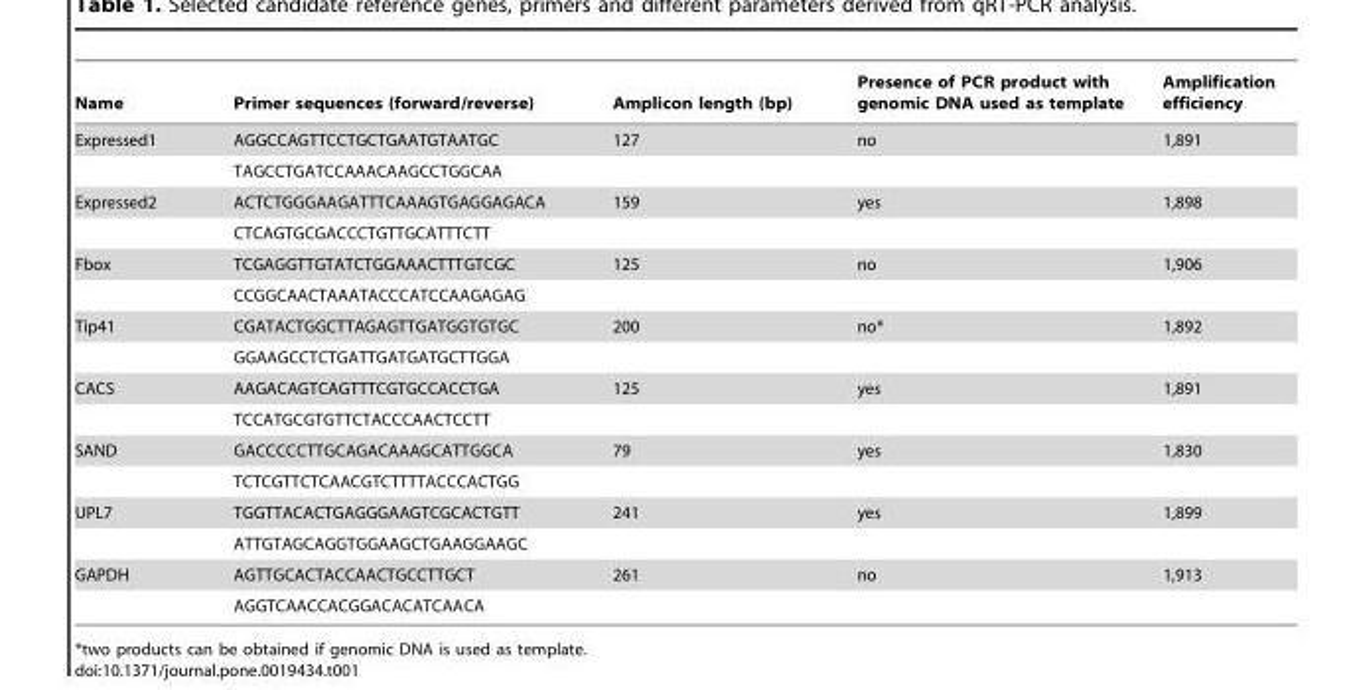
<table><thead><tr><td>Name</td><td>Primer sequences (forward/reverse)</td><td>Amplicon length (bp)</td><td>Presence of PCR product with genomic DNA used as template</td><td>Amplification efficiency</td></tr></thead><tbody><tr><td rowspan="2">Expressed1</td><td>AGGCCAGTTCCTGCTGAATGTAATGC</td><td>127</td><td>no</td><td>1,891</td></tr><tr><td>TAGCCTGATCCAAACAAGCCTGGCAA</td><td></td><td></td><td></td></tr><tr><td rowspan="2">Expressed2</td><td>ACTCTGGGAAGATTTCAAAGTGAGGAGACA</td><td>159</td><td>yes</td><td>1,898</td></tr><tr><td>CTCAGTGCGACCCTGTTGCATTTCTT</td><td></td><td></td><td></td></tr><tr><td rowspan="2">Fbox</td><td>TCGAGGTTGTATCTGGAAACTTTGTCGC</td><td>125</td><td>no</td><td>1,906</td></tr><tr><td>CCGGCAACTAAATACCCATCCAAGAGAG</td><td></td><td></td><td></td></tr><tr><td rowspan="2">Tip41</td><td>CGATACTGGCTTAGAGTTGATGGTGTGC</td><td>200</td><td>no*</td><td>1,892</td></tr><tr><td>GGAAGCCTCTGATTGATGATGCTTGGA</td><td></td><td></td><td></td></tr><tr><td rowspan="2">CACS</td><td>AAGACAGTCAGTTTCGTGCCACCTGA</td><td>125</td><td>yes</td><td>1,891</td></tr><tr><td>TCCATGCGTGTTCTACCCAACTCCTT</td><td></td><td></td><td></td></tr><tr><td rowspan="2">SAND</td><td>GACCCCCTTGCAGACAAAGCATTGGCA</td><td>79</td><td>yes</td><td>1,830</td></tr><tr><td>TCTCGTTCTCAACGTCTTTTACCCACTGG</td><td></td><td></td><td></td></tr><tr><td rowspan="2">UPL7</td><td>TGGTTACACTGAGGGAAGTCGCACTGTT</td><td>241</td><td>yes</td><td>1,899</td></tr><tr><td>ATTGTAGCAGGTGGAAGCTGAAGGAAGC</td><td></td><td></td><td></td></tr><tr><td rowspan="2">GAPDH</td><td>AGTTGCACTACCAACTGCCTTGCT</td><td>261</td><td>no</td><td>1,913</td></tr><tr><td>AGGTCAACCACGGACACATCAACA</td><td></td><td></td><td></td></tr></tbody></table>